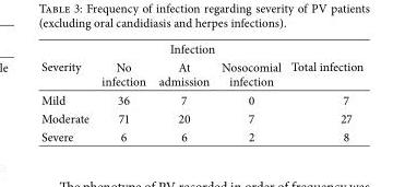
<table><thead><tr><td rowspan="2">Severity</td><td colspan="3">Infection</td><td rowspan="2">Total infection</td></tr><tr><td>No infection</td><td>At admission</td><td>Nosocomial infection</td></tr></thead><tbody><tr><td>Mild</td><td>36</td><td>7</td><td>0</td><td>7</td></tr><tr><td>Moderate</td><td>71</td><td>20</td><td>7</td><td>27</td></tr><tr><td>Severe</td><td>6</td><td>6</td><td>2</td><td>8</td></tr></tbody></table>